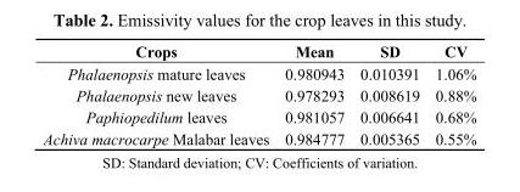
<table><thead><tr><td>Crops</td><td>Mean</td><td>SD</td><td>CV</td></tr></thead><tbody><tr><td>Phalaenopsis mature leaves</td><td>0.980943</td><td>0.010391</td><td>1.06%</td></tr><tr><td>Phalaenopsis new leaves</td><td>0.978293</td><td>0.008619</td><td>0.88%</td></tr><tr><td>Paphiopedilum leaves</td><td>0.981057</td><td>0.006641</td><td>0.68%</td></tr><tr><td>Achiva macrocarpe Malabar leaves</td><td>0.984777</td><td>0.005365</td><td>0.55%</td></tr></tbody></table>